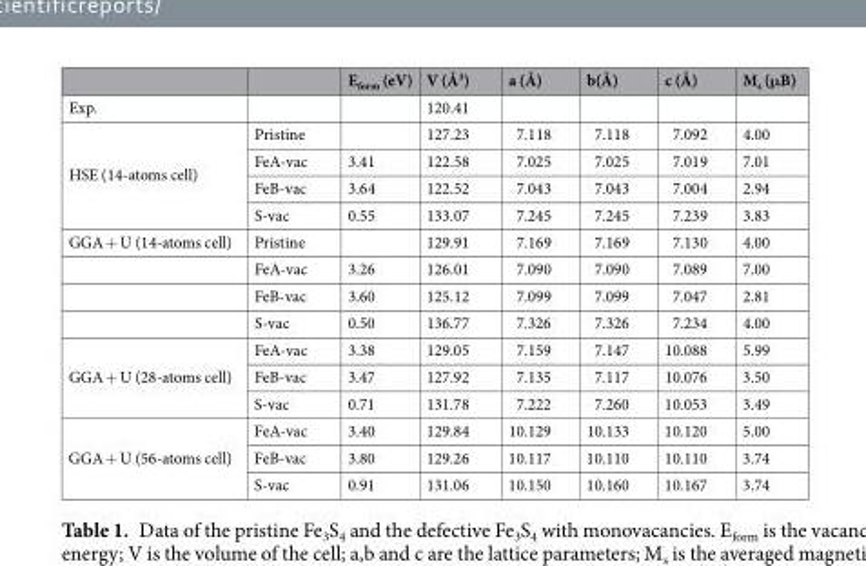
<table><thead><tr><td></td><td></td><td>E<sub>form</sub> (eV)</td><td>V (Å<sup>3</sup>)</td><td>a (Å)</td><td>b(Å)</td><td>c (Å)</td><td>M<sub>s</sub> (μB)</td></tr></thead><tbody><tr><td>Exp.</td><td></td><td></td><td>120.41</td><td></td><td></td><td></td><td></td></tr><tr><td rowspan="4">HSE (14-atoms cell)</td><td>Pristine</td><td></td><td>127.23</td><td>7.118</td><td>7.118</td><td>7.092</td><td>4.00</td></tr><tr><td>FeA-vac</td><td>3.41</td><td>122.58</td><td>7.025</td><td>7.025</td><td>7.019</td><td>7.01</td></tr><tr><td>FeB-vac</td><td>3.64</td><td>122.52</td><td>7.043</td><td>7.043</td><td>7.004</td><td>2.94</td></tr><tr><td>S-vac</td><td>0.55</td><td>133.07</td><td>7.245</td><td>7.245</td><td>7.239</td><td>3.83</td></tr><tr><td rowspan="4">GGA + U (14-atoms cell)</td><td>Pristine</td><td></td><td>129.91</td><td>7.169</td><td>7.169</td><td>7.130</td><td>4.00</td></tr><tr><td>FeA-vac</td><td>3.26</td><td>126.01</td><td>7.090</td><td>7.090</td><td>7.089</td><td>7.00</td></tr><tr><td>FeB-vac</td><td>3.60</td><td>125.12</td><td>7.099</td><td>7.099</td><td>7.047</td><td>2.81</td></tr><tr><td>S-vac</td><td>0.50</td><td>136.77</td><td>7.326</td><td>7.326</td><td>7.234</td><td>4.00</td></tr><tr><td rowspan="3">GGA + U (28-atoms cell)</td><td>FeA-vac</td><td>3.38</td><td>129.05</td><td>7.159</td><td>7.147</td><td>10.088</td><td>5.99</td></tr><tr><td>FeB-vac</td><td>3.47</td><td>127.92</td><td>7.135</td><td>7.117</td><td>10.076</td><td>3.50</td></tr><tr><td>S-vac</td><td>0.71</td><td>131.78</td><td>7.222</td><td>7.260</td><td>10.053</td><td>3.49</td></tr><tr><td rowspan="3">GGA + U (56-atoms cell)</td><td>FeA-vac</td><td>3.40</td><td>129.84</td><td>10.129</td><td>10.133</td><td>10.120</td><td>5.00</td></tr><tr><td>FeB-vac</td><td>3.80</td><td>129.26</td><td>10.117</td><td>10.110</td><td>10.110</td><td>3.74</td></tr><tr><td>S-vac</td><td>0.91</td><td>131.06</td><td>10.150</td><td>10.160</td><td>10.167</td><td>3.74</td></tr></tbody></table>